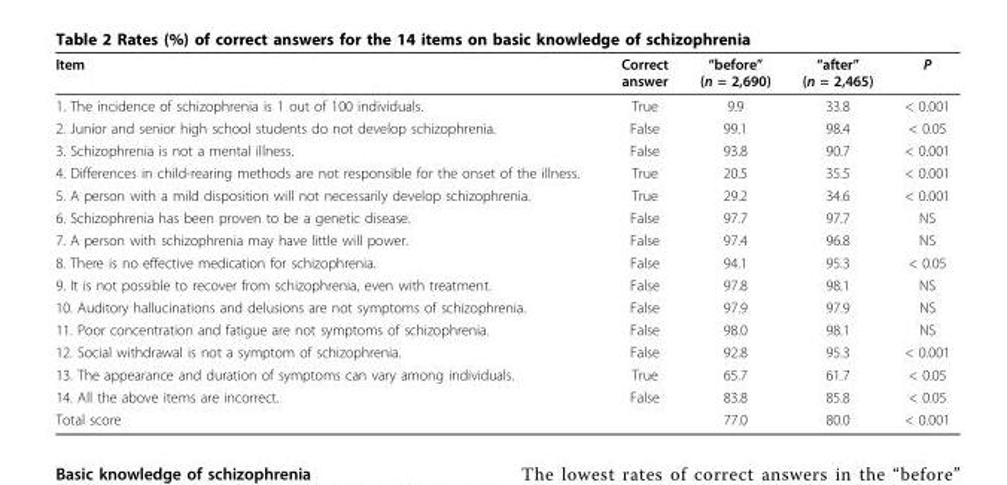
<table><thead><tr><td>Item</td><td>Correct answer</td><td>“before” (n = 2,690)</td><td>“after” (n = 2,465)</td><td>P</td></tr></thead><tbody><tr><td>1. The incidence of schizophrenia is 1 out of 100 individuals.</td><td>True</td><td>9.9</td><td>33.8</td><td>&lt; 0.001</td></tr><tr><td>2. Junior and senior high school students do not develop schizophrenia.</td><td>False</td><td>99.1</td><td>98.4</td><td>&lt; 0.05</td></tr><tr><td>3. Schizophrenia is not a mental illness.</td><td>False</td><td>93.8</td><td>90.7</td><td>&lt; 0.001</td></tr><tr><td>4. Differences in child-rearing methods are not responsible for the onset of the illness.</td><td>True</td><td>20.5</td><td>35.5</td><td>&lt; 0.001</td></tr><tr><td>5. A person with a mild disposition will not necessarily develop schizophrenia.</td><td>True</td><td>29.2</td><td>34.6</td><td>&lt; 0.001</td></tr><tr><td>6. Schizophrenia has been proven to be a genetic disease.</td><td>False</td><td>97.7</td><td>97.7</td><td>NS</td></tr><tr><td>7. A person with schizophrenia may have little will power.</td><td>False</td><td>97.4</td><td>96.8</td><td>NS</td></tr><tr><td>8. There is no effective medication for schizophrenia.</td><td>False</td><td>94.1</td><td>95.3</td><td>&lt; 0.05</td></tr><tr><td>9. It is not possible to recover from schizophrenia, even with treatment.</td><td>False</td><td>97.8</td><td>98.1</td><td>NS</td></tr><tr><td>10. Auditory hallucinations and delusions are not symptoms of schizophrenia.</td><td>False</td><td>97.9</td><td>97.9</td><td>NS</td></tr><tr><td>11. Poor concentration and fatigue are not symptoms of schizophrenia.</td><td>False</td><td>98.0</td><td>98.1</td><td>NS</td></tr><tr><td>12. Social withdrawal is not a symptom of schizophrenia.</td><td>False</td><td>92.8</td><td>95.3</td><td>&lt; 0.001</td></tr><tr><td>13. The appearance and duration of symptoms can vary among individuals.</td><td>True</td><td>65.7</td><td>61.7</td><td>&lt; 0.05</td></tr><tr><td>14. All the above items are incorrect.</td><td>False</td><td>83.8</td><td>85.8</td><td>&lt; 0.05</td></tr><tr><td>Total score</td><td></td><td>77.0</td><td>80.0</td><td>&lt; 0.001</td></tr></tbody></table>